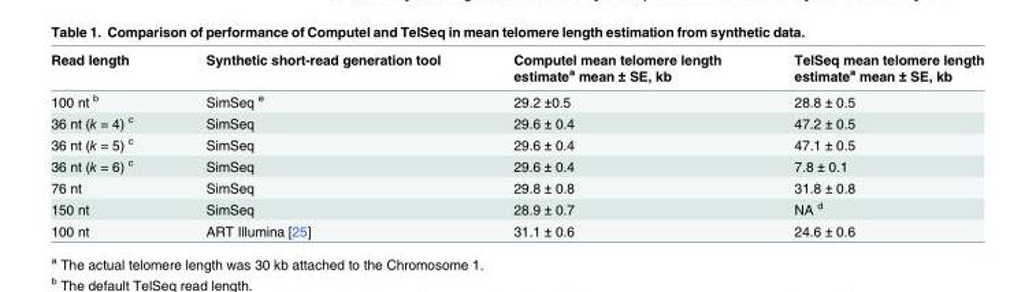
<table><thead><tr><td>Read length</td><td>Synthetic short-read generation tool</td><td>Computel mean telomere length estimate<sup>a</sup> mean ± SE, kb</td><td>TelSeq mean telomere length estimate<sup>a</sup> mean ± SE, kb</td></tr></thead><tbody><tr><td>100 nt <sup>b</sup></td><td>SimSeq <sup>e</sup></td><td>29.2 ±0.5</td><td>28.8 ± 0.5</td></tr><tr><td>36 nt (k = 4) <sup>c</sup></td><td>SimSeq</td><td>29.6 ± 0.4</td><td>47.2 ± 0.5</td></tr><tr><td>36 nt (k = 5) <sup>c</sup></td><td>SimSeq</td><td>29.6 ± 0.4</td><td>47.1 ± 0.5</td></tr><tr><td>36 nt (k = 6) <sup>c</sup></td><td>SimSeq</td><td>29.6 ± 0.4</td><td>7.8 ± 0.1</td></tr><tr><td>76 nt</td><td>SimSeq</td><td>29.8 ± 0.8</td><td>31.8 ± 0.8</td></tr><tr><td>150 nt</td><td>SimSeq</td><td>28.9 ± 0.7</td><td>NA <sup>d</sup></td></tr><tr><td>100 nt</td><td>ART Illumina [25]</td><td>31.1 ± 0.6</td><td>24.6 ± 0.6</td></tr></tbody></table>